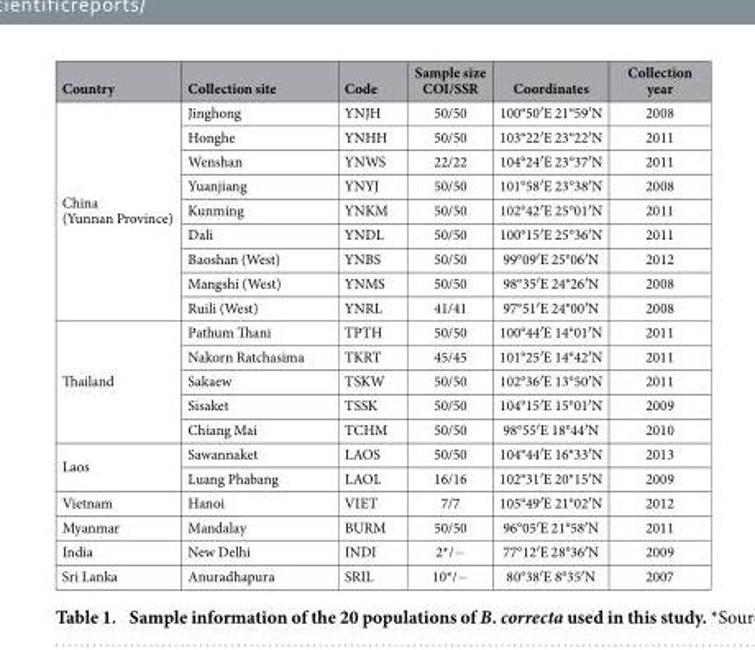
<table><thead><tr><td>Country</td><td>Collection site</td><td>Code</td><td>Sample size COI/SSR</td><td>Coordinates</td><td>Collection year</td></tr></thead><tbody><tr><td rowspan="9">China (Yunnan Province)</td><td>Jinghong</td><td>YNJH</td><td>50/50</td><td>100°50′ E 21°59′ N</td><td>2008</td></tr><tr><td>Honghe</td><td>YNHH</td><td>50/50</td><td>103°22′ E 23°22′ N</td><td>2011</td></tr><tr><td>Wenshan</td><td>YNWS</td><td>22/22</td><td>104°24′ E 23°37′ N</td><td>2011</td></tr><tr><td>Yuanjiang</td><td>YNYJ</td><td>50/50</td><td>101°58′ E 23°38′ N</td><td>2008</td></tr><tr><td>Kunming</td><td>YNKM</td><td>50/50</td><td>102°42′ E 25°01′ N</td><td>2011</td></tr><tr><td>Dali</td><td>YNDL</td><td>50/50</td><td>100°15′ E 25°36′ N</td><td>2011</td></tr><tr><td>Baoshan (West)</td><td>YNBS</td><td>50/50</td><td>99°09′ E 25°06′ N</td><td>2012</td></tr><tr><td>Mangshi (West)</td><td>YNMS</td><td>50/50</td><td>98°35′ E 24°26′ N</td><td>2008</td></tr><tr><td>Ruili (West)</td><td>YNRL</td><td>41/41</td><td>97°51′ E 24°00′ N</td><td>2008</td></tr><tr><td rowspan="5">Thailand</td><td>Pathum Thani</td><td>TPTH</td><td>50/50</td><td>100°44′ E 14°01′ N</td><td>2011</td></tr><tr><td>Nakorn Ratchasima</td><td>TKRT</td><td>45/45</td><td>101°25′ E 14°42′ N</td><td>2011</td></tr><tr><td>Sakaew</td><td>TSKW</td><td>50/50</td><td>102°36′ E 13°50′ N</td><td>2011</td></tr><tr><td>Sisaket</td><td>TSSK</td><td>50/50</td><td>104°15′ E 15°01′ N</td><td>2009</td></tr><tr><td>Chiang Mai</td><td>TCHM</td><td>50/50</td><td>98°55′ E 18°44′ N</td><td>2010</td></tr><tr><td rowspan="2">Laos</td><td>Sawannaket</td><td>LAOS</td><td>50/50</td><td>104°44′ E 16°33′ N</td><td>2013</td></tr><tr><td>Luang Phabang</td><td>LAOL</td><td>16/16</td><td>102°31′ E 20°15′ N</td><td>2009</td></tr><tr><td>Vietnam</td><td>Hanoi</td><td>VIET</td><td>7/7</td><td>105°49′ E 21°02′ N</td><td>2012</td></tr><tr><td>Myanmar</td><td>Mandalay</td><td>BURM</td><td>50/50</td><td>96°05′ E 21°58′ N</td><td>2011</td></tr><tr><td>India</td><td>New Delhi</td><td>INDI</td><td>2*/−</td><td>77°12′ E 28°36′ N</td><td>2009</td></tr><tr><td>Sri Lanka</td><td>Anuradhapura</td><td>SRIL</td><td>10*/−</td><td>80°38′ E 8°35′ N</td><td>2007</td></tr></tbody></table>